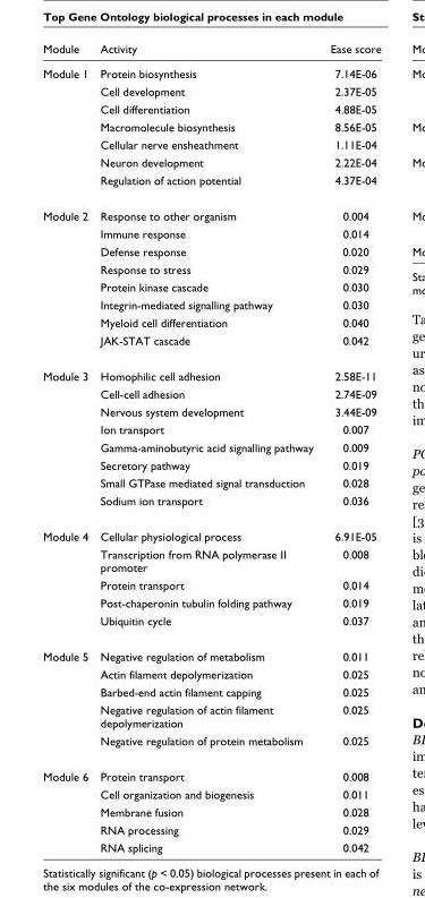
<table><thead><tr><td>Module</td><td>Activity</td><td>Ease score</td></tr></thead><tbody><tr><td rowspan="7">Module 1</td><td>Protein biosynthesis</td><td>7.14E-06</td></tr><tr><td>Cell development</td><td>2.37E-05</td></tr><tr><td>Cell differentiation</td><td>4.88E-05</td></tr><tr><td>Macromolecule biosynthesis</td><td>8.56E-05</td></tr><tr><td>Cellular nerve ensheathment</td><td>1.11E-04</td></tr><tr><td>Neuron development</td><td>2.22E-04</td></tr><tr><td>Regulation of action potential</td><td>4.37E-04</td></tr><tr><td rowspan="8">Module 2</td><td>Response to other organism</td><td>0.004</td></tr><tr><td>Immune response</td><td>0.014</td></tr><tr><td>Defense response</td><td>0.020</td></tr><tr><td>Response to stress</td><td>0.029</td></tr><tr><td>Protein kinase cascade</td><td>0.030</td></tr><tr><td>Integrin-mediated signalling pathway</td><td>0.030</td></tr><tr><td>Myeloid cell differentiation</td><td>0.040</td></tr><tr><td>JAK-STAT cascade</td><td>0.042</td></tr><tr><td rowspan="8">Module 3</td><td>Homophilic cell adhesion</td><td>2.58E-11</td></tr><tr><td>Cell-cell adhesion</td><td>2.74E-09</td></tr><tr><td>Nervous system development</td><td>3.44E-09</td></tr><tr><td>Ion transport</td><td>0.007</td></tr><tr><td>Gamma-aminobutyric acid signalling pathway</td><td>0.009</td></tr><tr><td>Secretory pathway</td><td>0.019</td></tr><tr><td>Small GTPase mediated signal transduction</td><td>0.028</td></tr><tr><td>Sodium ion transport</td><td>0.036</td></tr><tr><td rowspan="5">Module 4</td><td>Cellular physiological process</td><td>6.91E-05</td></tr><tr><td>Transcription from RNA polymerase II promoter</td><td>0.008</td></tr><tr><td>Protein transport</td><td>0.014</td></tr><tr><td>Post-chaperonin tubulin folding pathway</td><td>0.019</td></tr><tr><td>Ubiquitin cycle</td><td>0.037</td></tr><tr><td rowspan="5">Module 5</td><td>Negative regulation of metabolism</td><td>0.011</td></tr><tr><td>Actin filament depolymerization</td><td>0.025</td></tr><tr><td>Barbed-end actin filament capping</td><td>0.025</td></tr><tr><td>Negative regulation of actin filament depolymerization</td><td>0.025</td></tr><tr><td>Negative regulation of protein metabolism</td><td>0.025</td></tr><tr><td rowspan="5">Module 6</td><td>Protein transport</td><td>0.008</td></tr><tr><td>Cell organization and biogenesis</td><td>0.011</td></tr><tr><td>Membrane fusion</td><td>0.028</td></tr><tr><td>RNA processing</td><td>0.029</td></tr><tr><td>RNA splicing</td><td>0.042</td></tr></tbody></table>